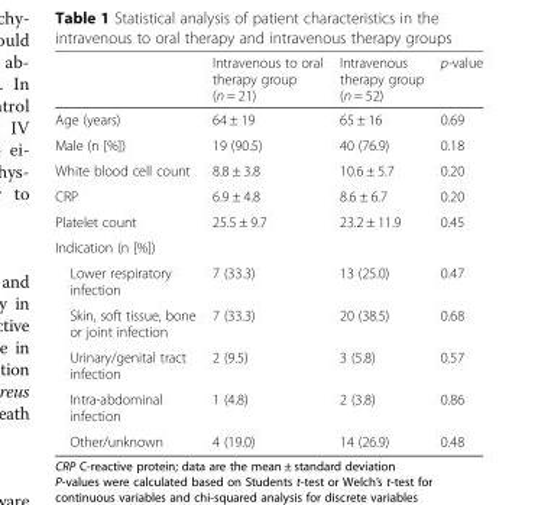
<table><thead><tr><td></td><td>Intravenous to oral therapy group (n = 21)</td><td>Intravenous therapy group (n = 52)</td><td>p-value</td></tr></thead><tbody><tr><td>Age (years)</td><td>64 ± 19</td><td>65 ± 16</td><td>0.69</td></tr><tr><td>Male (n [%])</td><td>19 (90.5)</td><td>40 (76.9)</td><td>0.18</td></tr><tr><td>White blood cell count</td><td>8.8 ± 3.8</td><td>10.6 ± 5.7</td><td>0.20</td></tr><tr><td>CRP</td><td>6.9 ± 4.8</td><td>8.6 ± 6.7</td><td>0.20</td></tr><tr><td>Platelet count</td><td>25.5 ± 9.7</td><td>23.2 ± 11.9</td><td>0.45</td></tr><tr><td colspan="4">Indication (n [%])</td></tr><tr><td>Lower respiratory infection</td><td>7 (33.3)</td><td>13 (25.0)</td><td>0.47</td></tr><tr><td>Skin, soft tissue, bone or joint infection</td><td>7 (33.3)</td><td>20 (38.5)</td><td>0.68</td></tr><tr><td>Urinary/genital tract infection</td><td>2 (9.5)</td><td>3 (5.8)</td><td>0.57</td></tr><tr><td>Intra-abdominal infection</td><td>1 (4.8)</td><td>2 (3.8)</td><td>0.86</td></tr><tr><td>Other/unknown</td><td>4 (19.0)</td><td>14 (26.9)</td><td>0.48</td></tr></tbody></table>